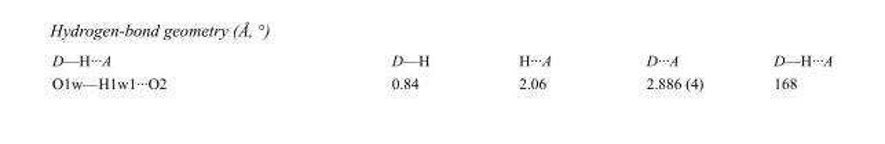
<table><tbody><tr><td>D—H···A</td><td>D—H</td><td>H···A</td><td>D···A</td><td>D—H···A</td></tr><tr><td>O1w—H1w1···O2</td><td>0.84</td><td>2.06</td><td>2.886 (4)</td><td>168</td></tr></tbody></table>